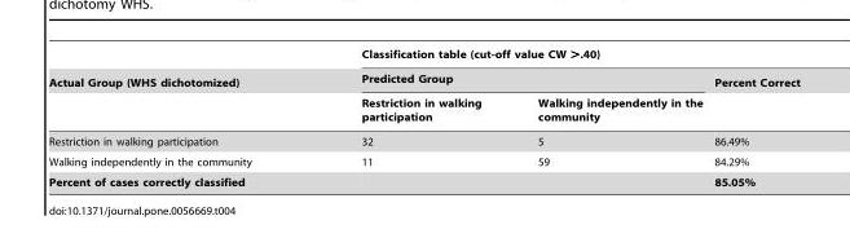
<table><thead><tr><td rowspan="3">Actual Group (WHS dichotomized)</td><td colspan="3">Classification table (cut-off value CW &gt;.40)</td></tr><tr><td colspan="2">Predicted Group</td><td rowspan="2">Percent Correct</td></tr><tr><td>Restriction in walking participation</td><td>Walking independently in the community</td></tr></thead><tbody><tr><td>Restriction in walking participation</td><td>32</td><td>5</td><td>86.49%</td></tr><tr><td>Walking independently in the community</td><td>11</td><td>59</td><td>84.29%</td></tr><tr><td>Percent of cases correctly classified</td><td></td><td></td><td>85.05%</td></tr></tbody></table>